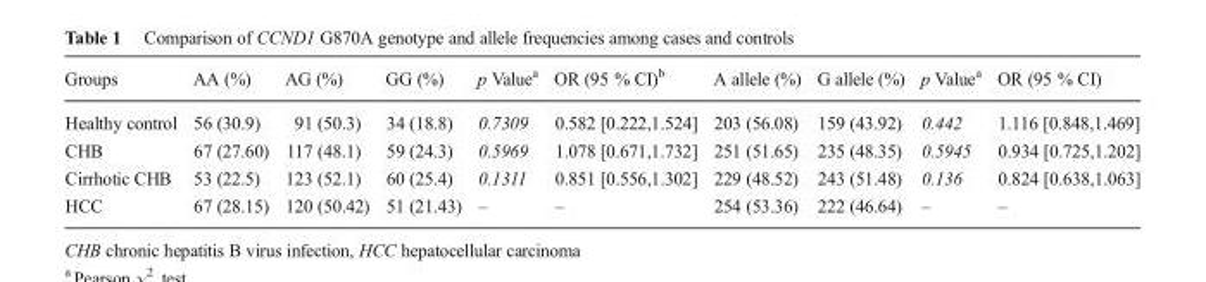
<table><thead><tr><td>Groups</td><td>AA (%)</td><td>AG (%)</td><td>GG (%)</td><td>p Value<sup>a</sup></td><td>OR (95 % CI)<sup>b</sup></td><td>A allele (%)</td><td>G allele (%)</td><td>p Value<sup>a</sup></td><td>OR (95 % CI)</td></tr></thead><tbody><tr><td>Healthy control</td><td>56 (30.9)</td><td>91 (50.3)</td><td>34 (18.8)</td><td>0.7309</td><td>0.582 [0.222,1.524]</td><td>203 (56.08)</td><td>159 (43.92)</td><td>0.442</td><td>1.116 [0.848,1.469]</td></tr><tr><td>CHB</td><td>67 (27.60)</td><td>117 (48.1)</td><td>59 (24.3)</td><td>0.5969</td><td>1.078 [0.671,1.732]</td><td>251 (51.65)</td><td>235 (48.35)</td><td>0.5945</td><td>0.934 [0.725,1.202]</td></tr><tr><td>Cirrhotic CHB</td><td>53 (22.5)</td><td>123 (52.1)</td><td>60 (25.4)</td><td>0.1311</td><td>0.851 [0.556,1.302]</td><td>229 (48.52)</td><td>243 (51.48)</td><td>0.136</td><td>0.824 [0.638,1.063]</td></tr><tr><td>HCC</td><td>67 (28.15)</td><td>120 (50.42)</td><td>51 (21.43)</td><td>–</td><td>–</td><td>254 (53.36)</td><td>222 (46.64)</td><td>–</td><td>–</td></tr></tbody></table>